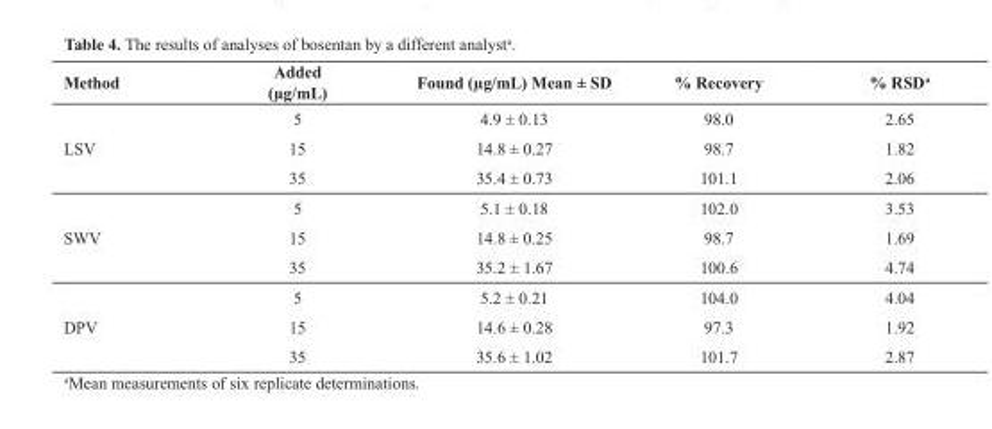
<table><thead><tr><td>Method</td><td>Added (µg/mL)</td><td>Found (µg/mL) Mean ± SD</td><td>% Recovery</td><td>% RSDa</td></tr></thead><tbody><tr><td></td><td>5</td><td>4.9 ± 0.13</td><td>98.0</td><td>2.65</td></tr><tr><td rowspan="3">LSV</td><td>15</td><td>14.8 ± 0.27</td><td>98.7</td><td>1.82</td></tr><tr><td>35</td><td>35.4 ± 0.73</td><td>101.1</td><td>2.06</td></tr><tr><td>5</td><td>5.1 ± 0.18</td><td>102.0</td><td>3.53</td></tr><tr><td rowspan="3">SWV</td><td>15</td><td>14.8 ± 0.25</td><td>98.7</td><td>1.69</td></tr><tr><td>35</td><td>35.2 ± 1.67</td><td>100.6</td><td>4.74</td></tr><tr><td>5</td><td>5.2 ± 0.21</td><td>104.0</td><td>4.04</td></tr><tr><td rowspan="2">DPV</td><td>15</td><td>14.6 ± 0.28</td><td>97.3</td><td>1.92</td></tr><tr><td>35</td><td>35.6 ± 1.02</td><td>101.7</td><td>2.87</td></tr></tbody></table>